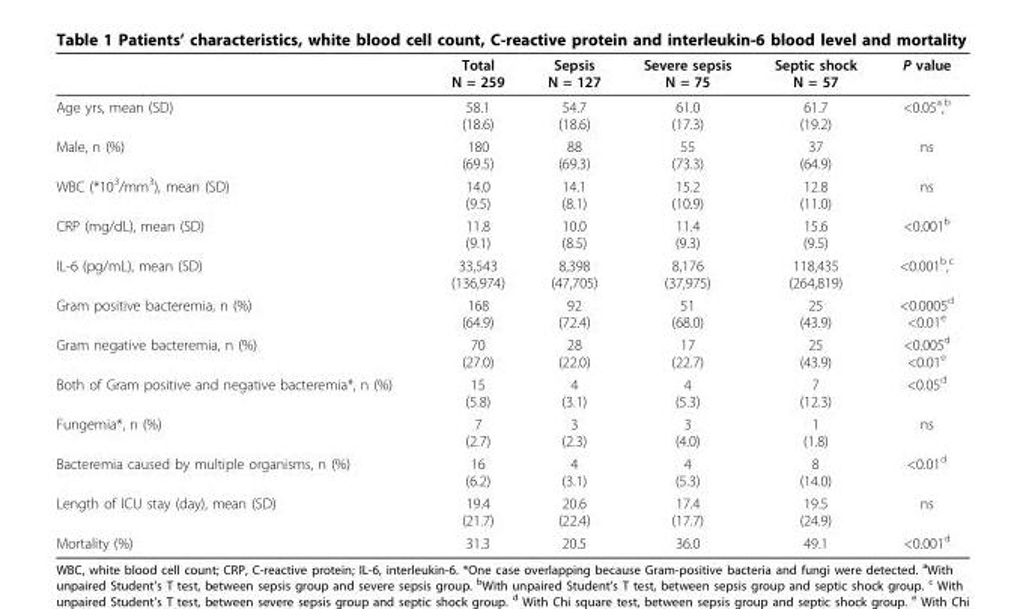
<table><thead><tr><td></td><td>Total N = 259</td><td>Sepsis N = 127</td><td>Severe sepsis N = 75</td><td>Septic shock N = 57</td><td>P value</td></tr></thead><tbody><tr><td>Age yrs, mean (SD)</td><td>58.1 (18.6)</td><td>54.7 (18.6)</td><td>61.0 (17.3)</td><td>61.7 (19.2)</td><td>&lt;0.05<sup>a</sup>,<sup>b</sup></td></tr><tr><td>Male, n (%)</td><td>180 (69.5)</td><td>88 (69.3)</td><td>55 (73.3)</td><td>37 (64.9)</td><td>ns</td></tr><tr><td>WBC (*10<sup>3</sup>/mm<sup>3</sup>), mean (SD)</td><td>14.0 (9.5)</td><td>14.1 (8.1)</td><td>15.2 (10.9)</td><td>12.8 (11.0)</td><td>ns</td></tr><tr><td>CRP (mg/dL), mean (SD)</td><td>11.8 (9.1)</td><td>10.0 (8.5)</td><td>11.4 (9.3)</td><td>15.6 (9.5)</td><td>&lt;0.001<sup>b</sup></td></tr><tr><td>IL-6 (pg/mL), mean (SD)</td><td>33,543 (136,974)</td><td>8,398 (47,705)</td><td>8,176 (37,975)</td><td>118,435 (264,819)</td><td>&lt;0.001<sup>b</sup>,<sup>c</sup></td></tr><tr><td>Gram positive bacteremia, n (%)</td><td>168 (64.9)</td><td>92 (72.4)</td><td>51 (68.0)</td><td>25 (43.9)</td><td>&lt;0.0005<sup>d</sup> &lt;0.01<sup>e</sup></td></tr><tr><td>Gram negative bacteremia, n (%)</td><td>70 (27.0)</td><td>28 (22.0)</td><td>17 (22.7)</td><td>25 (43.9)</td><td>&lt;0.005<sup>d</sup> &lt;0.01<sup>e</sup></td></tr><tr><td>Both of Gram positive and negative bacteremia*, n (%)</td><td>15 (5.8)</td><td>4 (3.1)</td><td>4 (5.3)</td><td>7 (12.3)</td><td>&lt;0.05<sup>d</sup></td></tr><tr><td>Fungemia*, n (%)</td><td>7 (2.7)</td><td>3 (2.3)</td><td>3 (4.0)</td><td>1 (1.8)</td><td>ns</td></tr><tr><td>Bacteremia caused by multiple organisms, n (%)</td><td>16 (6.2)</td><td>4 (3.1)</td><td>4 (5.3)</td><td>8 (14.0)</td><td>&lt;0.01<sup>d</sup></td></tr><tr><td>Length of ICU stay (day), mean (SD)</td><td>19.4 (21.7)</td><td>20.6 (22.4)</td><td>17.4 (17.7)</td><td>19.5 (24.9)</td><td>ns</td></tr><tr><td>Mortality (%)</td><td>31.3</td><td>20.5</td><td>36.0</td><td>49.1</td><td>&lt;0.001<sup>d</sup></td></tr></tbody></table>